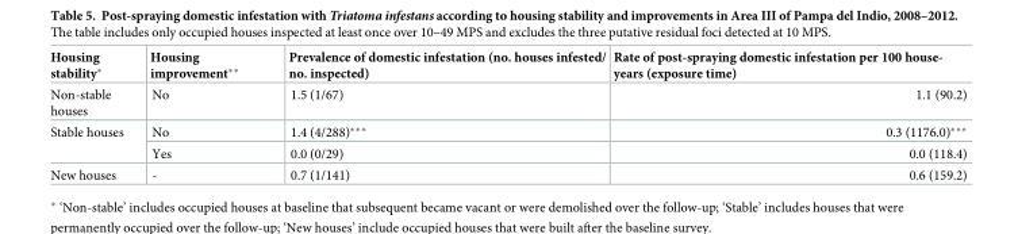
<table><thead><tr><td>Housing stability*</td><td>Housing improvement**</td><td>Prevalence of domestic infestation (no. houses infested/ no. inspected)</td><td>Rate of post-spraying domestic infestation per 100 house- years (exposure time)</td></tr></thead><tbody><tr><td>Non-stable houses</td><td>No</td><td>1.5 (1/67)</td><td>1.1 (90.2)</td></tr><tr><td rowspan="2">Stable houses</td><td>No</td><td>1.4 (4/288)***</td><td>0.3 (1176.0)***</td></tr><tr><td>Yes</td><td>0.0 (0/29)</td><td>0.0 (118.4)</td></tr><tr><td>New houses</td><td>-</td><td>0.7 (1/141)</td><td>0.6 (159.2)</td></tr></tbody></table>